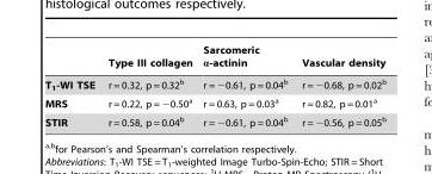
<table><thead><tr><td></td><td>Type III collagen</td><td>Sarcomeric α-actinin</td><td>Vascular density</td></tr></thead><tbody><tr><td>T<sub>1</sub>-WI TSE</td><td>r = 0.32, p = 0.32<sup>b</sup></td><td>r = −0.61, p = 0.04<sup>b</sup></td><td>r = −0.68, p = 0.02<sup>b</sup></td></tr><tr><td>MRS</td><td>r = 0.22, p = −0.50<sup>a</sup></td><td>r = 0.63, p = 0.03<sup>a</sup></td><td>r = 0.82, p = 0.01<sup>a</sup></td></tr><tr><td>STIR</td><td>r = 0.58, p = 0.04<sup>b</sup></td><td>r = −0.61, p = 0.04<sup>b</sup></td><td>r = −0.56, p = 0.05<sup>b</sup></td></tr></tbody></table>